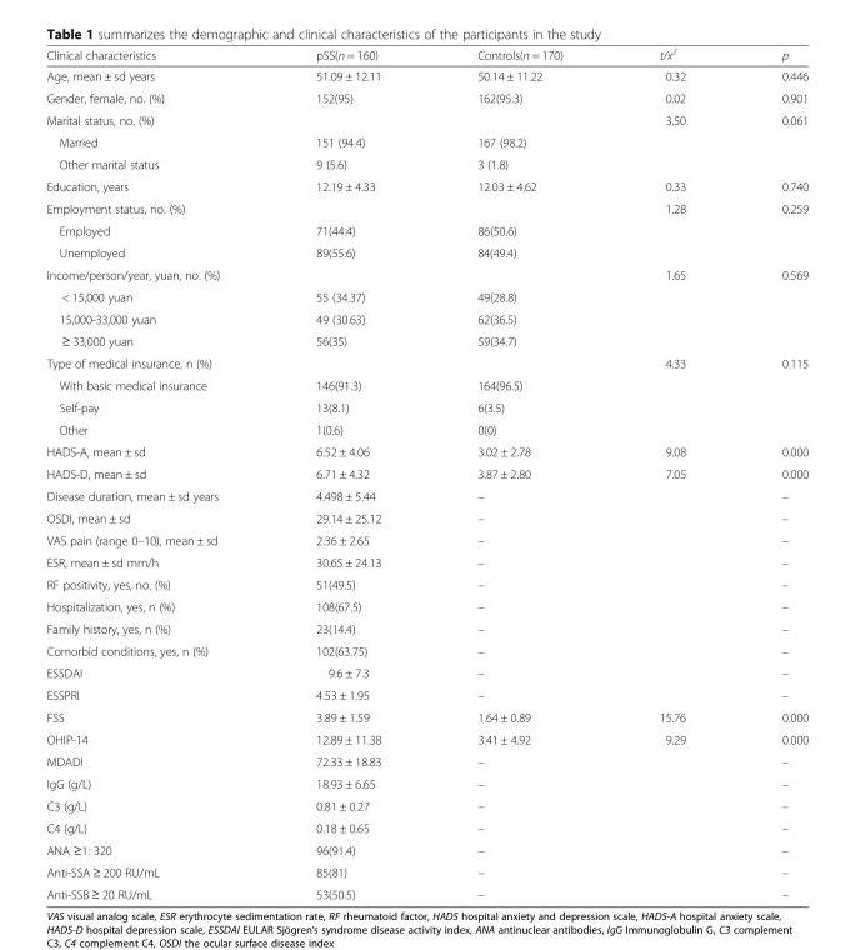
<table><thead><tr><td>Clinical characteristics</td><td>pSS(n = 160)</td><td>Controls(n = 170)</td><td>t/x<sup>2</sup></td><td>p</td></tr></thead><tbody><tr><td>Age, mean ± sd years</td><td>51.09 ± 12.11</td><td>50.14 ± 11.22</td><td>0.32</td><td>0.446</td></tr><tr><td>Gender, female, no. (%)</td><td>152(95)</td><td>162(95.3)</td><td>0.02</td><td>0.901</td></tr><tr><td>Marital status, no. (%)</td><td></td><td></td><td>3.50</td><td>0.061</td></tr><tr><td>Married</td><td>151 (94.4)</td><td>167 (98.2)</td><td></td><td rowspan="2"></td></tr><tr><td>Other marital status</td><td>9 (5.6)</td><td>3 (1.8)</td><td></td></tr><tr><td>Education, years</td><td>12.19 ± 4.33</td><td>12.03 ± 4.62</td><td>0.33</td><td>0.740</td></tr><tr><td>Employment status, no. (%)</td><td></td><td></td><td>1.28</td><td>0.259</td></tr><tr><td>Employed</td><td>71(44.4)</td><td>86(50.6)</td><td></td><td rowspan="2"></td></tr><tr><td>Unemployed</td><td>89(55.6)</td><td>84(49.4)</td><td></td></tr><tr><td>Income/person/year, yuan, no. (%)</td><td></td><td></td><td>1.65</td><td>0.569</td></tr><tr><td>&lt; 15,000 yuan</td><td>55 (34.37)</td><td>49(28.8)</td><td></td><td rowspan="3"></td></tr><tr><td>15,000-33,000 yuan</td><td>49 (30.63)</td><td>62(36.5)</td><td></td></tr><tr><td>≥ 33,000 yuan</td><td>56(35)</td><td>59(34.7)</td><td></td></tr><tr><td>Type of medical insurance, n (%)</td><td></td><td></td><td>4.33</td><td>0.115</td></tr><tr><td>With basic medical insurance</td><td>146(91.3)</td><td>164(96.5)</td><td></td><td rowspan="3"></td></tr><tr><td>Self-pay</td><td>13(8.1)</td><td>6(3.5)</td><td></td></tr><tr><td>Other</td><td>1(0.6)</td><td>0(0)</td><td></td></tr><tr><td>HADS-A, mean ± sd</td><td>6.52 ± 4.06</td><td>3.02 ± 2.78</td><td>9.08</td><td>0.000</td></tr><tr><td>HADS-D, mean ± sd</td><td>6.71 ± 4.32</td><td>3.87 ± 2.80</td><td>7.05</td><td>0.000</td></tr><tr><td>Disease duration, mean ± sd years</td><td>4.498 ± 5.44</td><td>–</td><td></td><td>–</td></tr><tr><td>OSDI, mean ± sd</td><td>29.14 ± 25.12</td><td>–</td><td></td><td>–</td></tr><tr><td>VAS pain (range 0–10), mean ± sd</td><td>2.36 ± 2.65</td><td>–</td><td></td><td>–</td></tr><tr><td>ESR, mean ± sd mm/h</td><td>30.65 ± 24.13</td><td>–</td><td></td><td>–</td></tr><tr><td>RF positivity, yes, no. (%)</td><td>51(49.5)</td><td>–</td><td></td><td>–</td></tr><tr><td>Hospitalization, yes, n (%)</td><td>108(67.5)</td><td>–</td><td></td><td>–</td></tr><tr><td>Family history, yes, n (%)</td><td>23(14.4)</td><td>–</td><td></td><td>–</td></tr><tr><td>Comorbid conditions, yes, n (%)</td><td>102(63.75)</td><td>–</td><td></td><td>–</td></tr><tr><td>ESSDAI</td><td>9.6 ± 7.3</td><td>–</td><td></td><td>–</td></tr><tr><td>ESSPRI</td><td>4.53 ± 1.95</td><td>–</td><td></td><td>–</td></tr><tr><td>FSS</td><td>3.89 ± 1.59</td><td>1.64 ± 0.89</td><td>15.76</td><td>0.000</td></tr><tr><td>OHIP-14</td><td>12.89 ± 11.38</td><td>3.41 ± 4.92</td><td>9.29</td><td>0.000</td></tr><tr><td>MDADI</td><td>72.33 ± 18.83</td><td>–</td><td></td><td>–</td></tr><tr><td>IgG (g/L)</td><td>18.93 ± 6.65</td><td>–</td><td></td><td>–</td></tr><tr><td>C3 (g/L)</td><td>0.81 ± 0.27</td><td>–</td><td></td><td>–</td></tr><tr><td>C4 (g/L)</td><td>0.18 ± 0.65</td><td>–</td><td></td><td>–</td></tr><tr><td>ANA ≥1: 320</td><td>96(91.4)</td><td>–</td><td></td><td>–</td></tr><tr><td>Anti-SSA ≥ 200 RU/mL</td><td>85(81)</td><td>–</td><td></td><td>–</td></tr><tr><td>Anti-SSB ≥ 20 RU/mL</td><td>53(50.5)</td><td>–</td><td></td><td>–</td></tr></tbody></table>